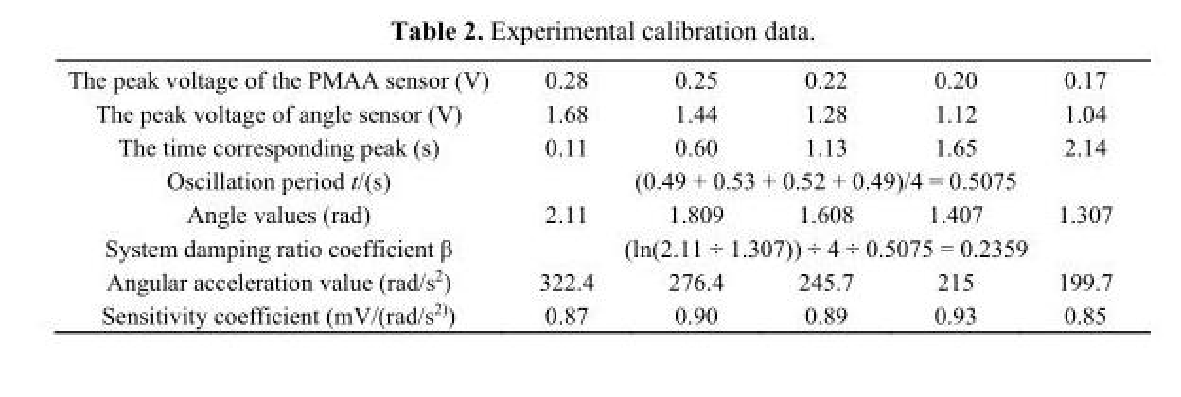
<table><tbody><tr><td>The peak voltage of the PMAA sensor (V)</td><td>0.28</td><td>0.25</td><td>0.22</td><td>0.20</td><td>0.17</td></tr><tr><td>The peak voltage of angle sensor (V)</td><td>1.68</td><td>1.44</td><td>1.28</td><td>1.12</td><td>1.04</td></tr><tr><td>The time corresponding peak (s)</td><td>0.11</td><td>0.60</td><td>1.13</td><td>1.65</td><td>2.14</td></tr><tr><td>Oscillation period t/(s)</td><td colspan="5">(0.49 + 0.53 + 0.52 + 0.49)/4 = 0.5075</td></tr><tr><td>Angle values (rad)</td><td>2.11</td><td>1.809</td><td>1.608</td><td>1.407</td><td>1.307</td></tr><tr><td>System damping ratio coefficient β</td><td colspan="5">(ln(2.11 ÷ 1.307)) ÷ 4 ÷ 0.5075 = 0.2359</td></tr><tr><td>Angular acceleration value (rad/s<sup>2</sup>)</td><td>322.4</td><td>276.4</td><td>245.7</td><td>215</td><td>199.7</td></tr><tr><td>Sensitivity coefficient (mV/(rad/s<sup>2)</sup>)</td><td>0.87</td><td>0.90</td><td>0.89</td><td>0.93</td><td>0.85</td></tr></tbody></table>